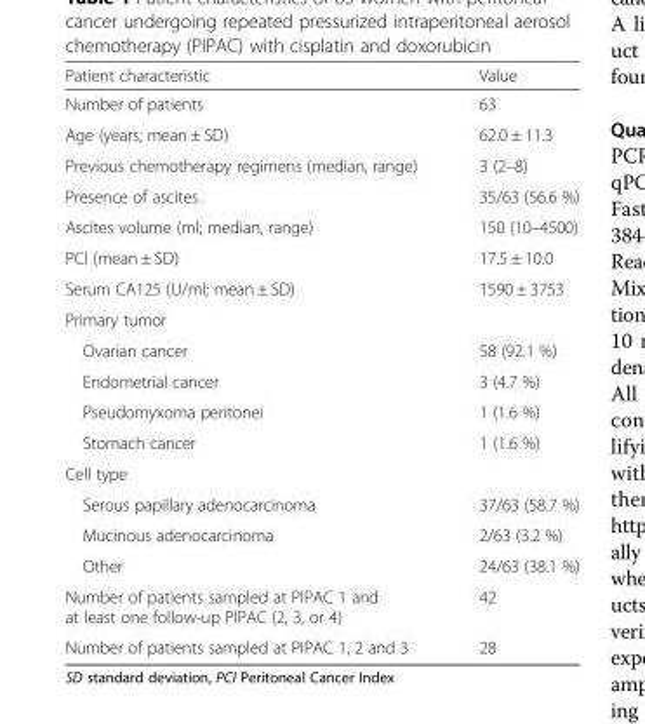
<table><thead><tr><td>Patient characteristic</td><td>Value</td></tr></thead><tbody><tr><td>Number of patients</td><td>63</td></tr><tr><td>Age (years; mean ± SD)</td><td>62.0 ± 11.3</td></tr><tr><td>Previous chemotherapy regimens (median, range)</td><td>3 (2–8)</td></tr><tr><td>Presence of ascites</td><td>35/63 (56.6 %)</td></tr><tr><td>Ascites volume (ml; median, range)</td><td>150 (10–4500)</td></tr><tr><td>PCI (mean ± SD)</td><td>17.5 ± 10.0</td></tr><tr><td>Serum CA125 (U/ml; mean ± SD)</td><td>1590 ± 3753</td></tr><tr><td colspan="2">Primary tumor</td></tr><tr><td>Ovarian cancer</td><td>58 (92.1 %)</td></tr><tr><td>Endometrial cancer</td><td>3 (4.7 %)</td></tr><tr><td>Pseudomyxoma peritonei</td><td>1 (1.6 %)</td></tr><tr><td>Stomach cancer</td><td>1 (1.6 %)</td></tr><tr><td colspan="2">Cell type</td></tr><tr><td>Serous papillary adenocarcinoma</td><td>37/63 (58.7 %)</td></tr><tr><td>Mucinous adenocarcinoma</td><td>2/63 (3.2 %)</td></tr><tr><td>Other</td><td>24/63 (38.1 %)</td></tr><tr><td>Number of patients sampled at PIPAC 1 and at least one follow-up PIPAC (2, 3, or 4)</td><td>42</td></tr><tr><td>Number of patients sampled at PIPAC 1, 2 and 3</td><td>28</td></tr></tbody></table>